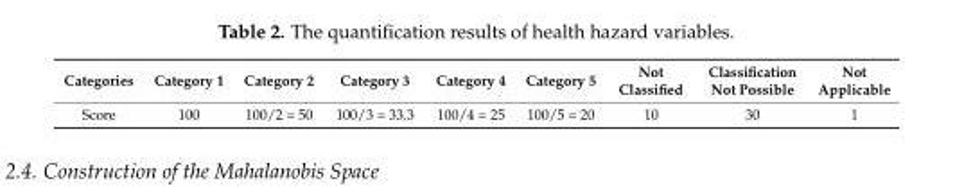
<table><thead><tr><td>Categories</td><td>Category 1</td><td>Category 2</td><td>Category 3</td><td>Category 4</td><td>Category 5</td><td>Not Classified</td><td>Classification Not Possible</td><td>Not Applicable</td></tr></thead><tbody><tr><td>Score</td><td>100</td><td>100/2 = 50</td><td>100/3 = 33.3</td><td>100/4 = 25</td><td>100/5 = 20</td><td>10</td><td>30</td><td>1</td></tr></tbody></table>